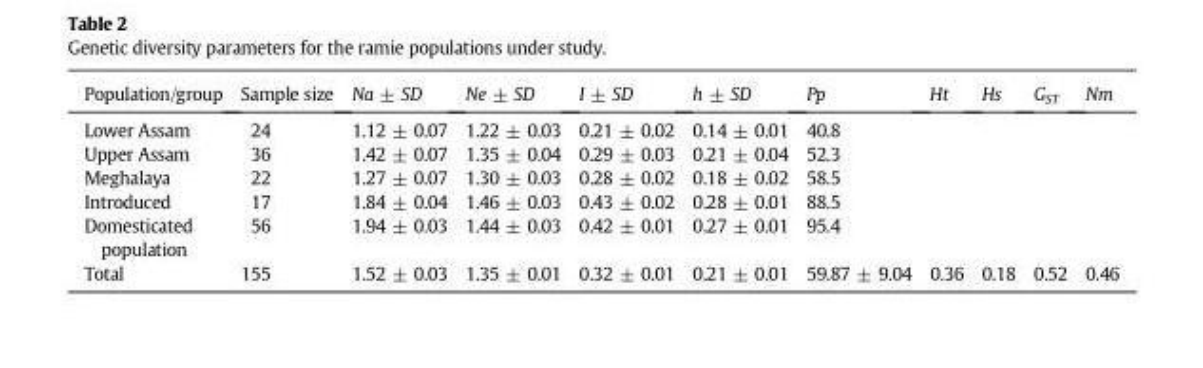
<table><thead><tr><td>Population/group</td><td>Sample size</td><td>Na ± SD</td><td>Ne ± SD</td><td>I ± SD</td><td>h ± SD</td><td>Pp</td><td>Ht</td><td>Hs</td><td>G<sub>ST</sub></td><td>Nm</td></tr></thead><tbody><tr><td>Lower Assam</td><td>24</td><td>1.12 ± 0.07</td><td>1.22 ± 0.03</td><td>0.21 ± 0.02</td><td>0.14 ± 0.01</td><td>40.8</td><td></td><td></td><td></td><td></td></tr><tr><td>Upper Assam</td><td>36</td><td>1.42 ± 0.07</td><td>1.35 ± 0.04</td><td>0.29 ± 0.03</td><td>0.21 ± 0.04</td><td>52.3</td><td></td><td></td><td></td><td></td></tr><tr><td>Meghalaya</td><td>22</td><td>1.27 ± 0.07</td><td>1.30 ± 0.03</td><td>0.28 ± 0.02</td><td>0.18 ± 0.02</td><td>58.5</td><td></td><td></td><td></td><td></td></tr><tr><td>Introduced</td><td>17</td><td>1.84 ± 0.04</td><td>1.46 ± 0.03</td><td>0.43 ± 0.02</td><td>0.28 ± 0.01</td><td>88.5</td><td></td><td></td><td></td><td></td></tr><tr><td>Domesticated population</td><td>56</td><td>1.94 ± 0.03</td><td>1.44 ± 0.03</td><td>0.42 ± 0.01</td><td>0.27 ± 0.01</td><td>95.4</td><td></td><td></td><td></td><td></td></tr><tr><td>Total</td><td>155</td><td>1.52 ± 0.03</td><td>1.35 ± 0.01</td><td>0.32 ± 0.01</td><td>0.21 ± 0.01</td><td>59.87 ± 9.04</td><td>0.36</td><td>0.18</td><td>0.52</td><td>0.46</td></tr></tbody></table>